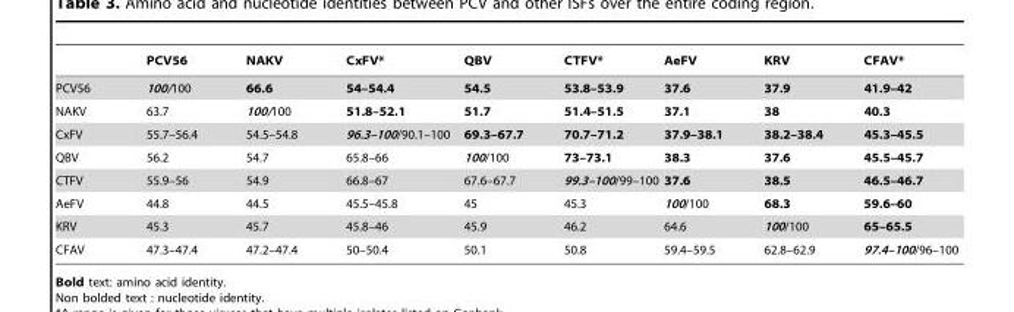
<table><thead><tr><td></td><td>PCV56</td><td>NAKV</td><td>CxFV*</td><td>QBV</td><td>CTFV*</td><td>AeFV</td><td>KRV</td><td>CFAV*</td></tr></thead><tbody><tr><td>PCV56</td><td>100/100</td><td>66.6</td><td>54–54.4</td><td>54.5</td><td>53.8–53.9</td><td>37.6</td><td>37.9</td><td>41.9–42</td></tr><tr><td>NAKV</td><td>63.7</td><td>100/100</td><td>51.8–52.1</td><td>51.7</td><td>51.4–51.5</td><td>37.1</td><td>38</td><td>40.3</td></tr><tr><td>CxFV</td><td>55.7–56.4</td><td>54.5–54.8</td><td>96.3–100/90.1–100</td><td>69.3–67.7</td><td>70.7–71.2</td><td>37.9–38.1</td><td>38.2–38.4</td><td>45.3–45.5</td></tr><tr><td>QBV</td><td>56.2</td><td>54.7</td><td>65.8–66</td><td>100/100</td><td>73–73.1</td><td>38.3</td><td>37.6</td><td>45.5–45.7</td></tr><tr><td>CTFV</td><td>55.9–56</td><td>54.9</td><td>66.8–67</td><td>67.6–67.7</td><td>99.3–100/99–100</td><td>37.6</td><td>38.5</td><td>46.5–46.7</td></tr><tr><td>AeFV</td><td>44.8</td><td>44.5</td><td>45.5–45.8</td><td>45</td><td>45.3</td><td>100/100</td><td>68.3</td><td>59.6–60</td></tr><tr><td>KRV</td><td>45.3</td><td>45.7</td><td>45.8–46</td><td>45.9</td><td>46.2</td><td>64.6</td><td>100/100</td><td>65–65.5</td></tr><tr><td>CFAV</td><td>47.3–47.4</td><td>47.2–47.4</td><td>50–50.4</td><td>50.1</td><td>50.8</td><td>59.4–59.5</td><td>62.8–62.9</td><td>97.4–100/96–100</td></tr></tbody></table>